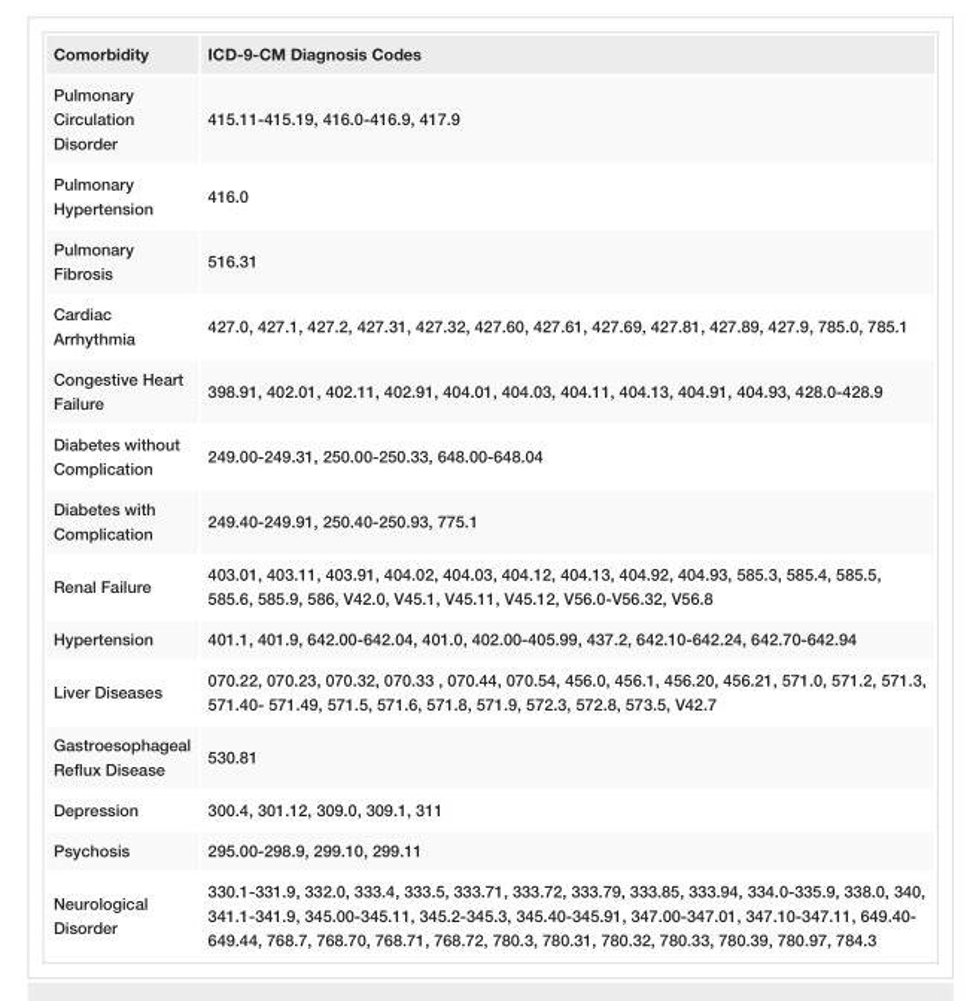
<table><tbody><tr><td>Comorbidity</td><td>ICD-9-CM Diagnosis Codes</td></tr><tr><td>Pulmonary Circulation Disorder</td><td>415.11-415.19, 416.0-416.9, 417.9</td></tr><tr><td>Pulmonary Hypertension</td><td>416.0</td></tr><tr><td>Pulmonary Fibrosis</td><td>516.31</td></tr><tr><td>Cardiac Arrhythmia</td><td>427.0, 427.1, 427.2, 427.31, 427.32, 427.60, 427.61, 427.69, 427.81, 427.89, 427.9, 785.0, 785.1</td></tr><tr><td>Congestive Heart Failure</td><td>398.91, 402.01, 402.11, 402.91, 404.01, 404.03, 404.11, 404.13, 404.91, 404.93, 428.0-428.9</td></tr><tr><td>Diabetes without Complication</td><td>249.00-249.31, 250.00-250.33, 648.00-648.04</td></tr><tr><td>Diabetes with Complication</td><td>249.40-249.91, 250.40-250.93, 775.1</td></tr><tr><td>Renal Failure</td><td>403.01, 403.11, 403.91, 404.02, 404.03, 404.12, 404.13, 404.92, 404.93, 585.3, 585.4, 585.5, 585.6, 585.9, 586, V42.0, V45.1, V45.11, V45.12, V56.0-V56.32, V56.8</td></tr><tr><td>Hypertension</td><td>401.1, 401.9, 642.00-642.04, 401.0, 402.00-405.99, 437.2, 642.10-642.24, 642.70-642.94</td></tr><tr><td>Liver Diseases</td><td>070.22, 070.23, 070.32, 070.33 , 070.44, 070.54, 456.0, 456.1, 456.20, 456.21, 571.0, 571.2, 571.3, 571.40- 571.49, 571.5, 571.6, 571.8, 571.9, 572.3, 572.8, 573.5, V42.7</td></tr><tr><td>Gastroesophageal Reflux Disease</td><td>530.81</td></tr><tr><td>Depression</td><td>300.4, 301.12, 309.0, 309.1, 311</td></tr><tr><td>Psychosis</td><td>295.00-298.9, 299.10, 299.11</td></tr><tr><td>Neurological Disorder</td><td>330.1-331.9, 332.0, 333.4, 333.5, 333.71, 333.72, 333.79, 333.85, 333.94, 334.0-335.9, 338.0, 340, 341.1-341.9, 345.00-345.11, 345.2-345.3, 345.40-345.91, 347.00-347.01, 347.10-347.11, 649.40- 649.44, 768.7, 768.70, 768.71, 768.72, 780.3, 780.31, 780.32, 780.33, 780.39, 780.97, 784.3</td></tr></tbody></table>